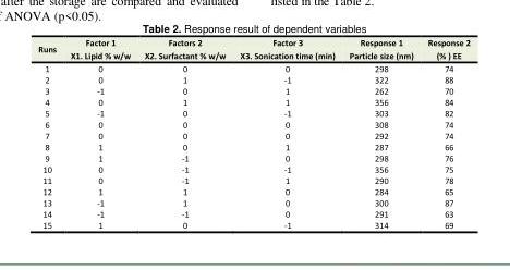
<table><tbody><tr><td rowspan="2">Runs</td><td>Factor 1</td><td>Factors 2</td><td>Factor 3</td><td>Response 1</td><td>Response 2</td></tr><tr><td>X1. Lipid % w/w</td><td>X2. Surfactant % w/w</td><td>X3. Sonication time (min)</td><td>Particle size (nm)</td><td>(% ) EE</td></tr><tr><td>1</td><td>0</td><td>0</td><td>0</td><td>298</td><td>74</td></tr><tr><td>2</td><td>0</td><td>1</td><td>-1</td><td>322</td><td>88</td></tr><tr><td>3</td><td>-1</td><td>0</td><td>1</td><td>262</td><td>70</td></tr><tr><td>4</td><td>0</td><td>1</td><td>1</td><td>356</td><td>84</td></tr><tr><td>5</td><td>-1</td><td>0</td><td>-1</td><td>303</td><td>82</td></tr><tr><td>6</td><td>0</td><td>0</td><td>0</td><td>308</td><td>74</td></tr><tr><td>7</td><td>0</td><td>0</td><td>0</td><td>292</td><td>74</td></tr><tr><td>8</td><td>1</td><td>0</td><td>1</td><td>287</td><td>66</td></tr><tr><td>9</td><td>1</td><td>-1</td><td>0</td><td>298</td><td>76</td></tr><tr><td>10</td><td>0</td><td>-1</td><td>-1</td><td>356</td><td>75</td></tr><tr><td>11</td><td>0</td><td>-1</td><td>1</td><td>290</td><td>78</td></tr><tr><td>12</td><td>1</td><td>1</td><td>0</td><td>284</td><td>65</td></tr><tr><td>13</td><td>-1</td><td>1</td><td>0</td><td>300</td><td>87</td></tr><tr><td>14</td><td>-1</td><td>-1</td><td>0</td><td>291</td><td>63</td></tr><tr><td>15</td><td>1</td><td>0</td><td>-1</td><td>314</td><td>69</td></tr></tbody></table>